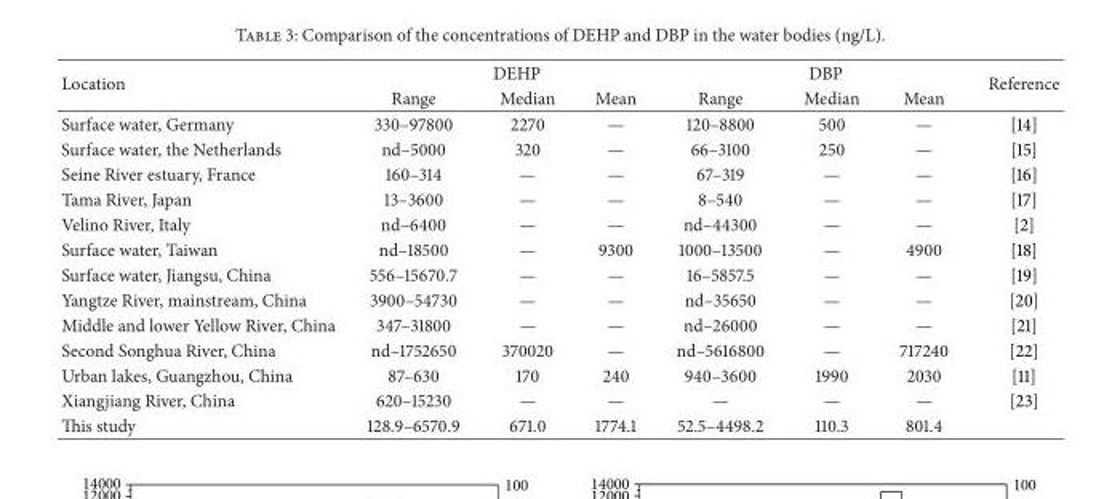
<table><thead><tr><td rowspan="2">Location</td><td colspan="3">DEHP</td><td colspan="3">DBP</td><td rowspan="2">Reference</td></tr><tr><td>Range</td><td>Median</td><td>Mean</td><td>Range</td><td>Median</td><td>Mean</td></tr></thead><tbody><tr><td>Surface water, Germany</td><td>330–97800</td><td>2270</td><td>—</td><td>120–8800</td><td>500</td><td>—</td><td>[14]</td></tr><tr><td>Surface water, the Netherlands</td><td>nd–5000</td><td>320</td><td>—</td><td>66–3100</td><td>250</td><td>—</td><td>[15]</td></tr><tr><td>Seine River estuary, France</td><td>160–314</td><td>—</td><td>—</td><td>67–319</td><td>—</td><td>—</td><td>[16]</td></tr><tr><td>Tama River, Japan</td><td>13–3600</td><td>—</td><td>—</td><td>8–540</td><td>—</td><td>—</td><td>[17]</td></tr><tr><td>Velino River, Italy</td><td>nd–6400</td><td>—</td><td>—</td><td>nd–44300</td><td>—</td><td>—</td><td>[2]</td></tr><tr><td>Surface water, Taiwan</td><td>nd–18500</td><td>—</td><td>9300</td><td>1000–13500</td><td>—</td><td>4900</td><td>[18]</td></tr><tr><td>Surface water, Jiangsu, China</td><td>556–15670.7</td><td>—</td><td>—</td><td>16–5857.5</td><td>—</td><td>—</td><td>[19]</td></tr><tr><td>Yangtze River, mainstream, China</td><td>3900–54730</td><td>—</td><td>—</td><td>nd–35650</td><td>—</td><td>—</td><td>[20]</td></tr><tr><td>Middle and lower Yellow River, China</td><td>347–31800</td><td>—</td><td>—</td><td>nd–26000</td><td>—</td><td>—</td><td>[21]</td></tr><tr><td>Second Songhua River, China</td><td>nd–1752650</td><td>370020</td><td>—</td><td>nd–5616800</td><td>—</td><td>717240</td><td>[22]</td></tr><tr><td>Urban lakes, Guangzhou, China</td><td>87–630</td><td>170</td><td>240</td><td>940–3600</td><td>1990</td><td>2030</td><td>[11]</td></tr><tr><td>Xiangjiang River, China</td><td>620–15230</td><td>—</td><td>—</td><td>—</td><td>—</td><td>—</td><td>[23]</td></tr><tr><td>This study</td><td>128.9–6570.9</td><td>671.0</td><td>1774.1</td><td>52.5–4498.2</td><td>110.3</td><td>801.4</td><td></td></tr></tbody></table>